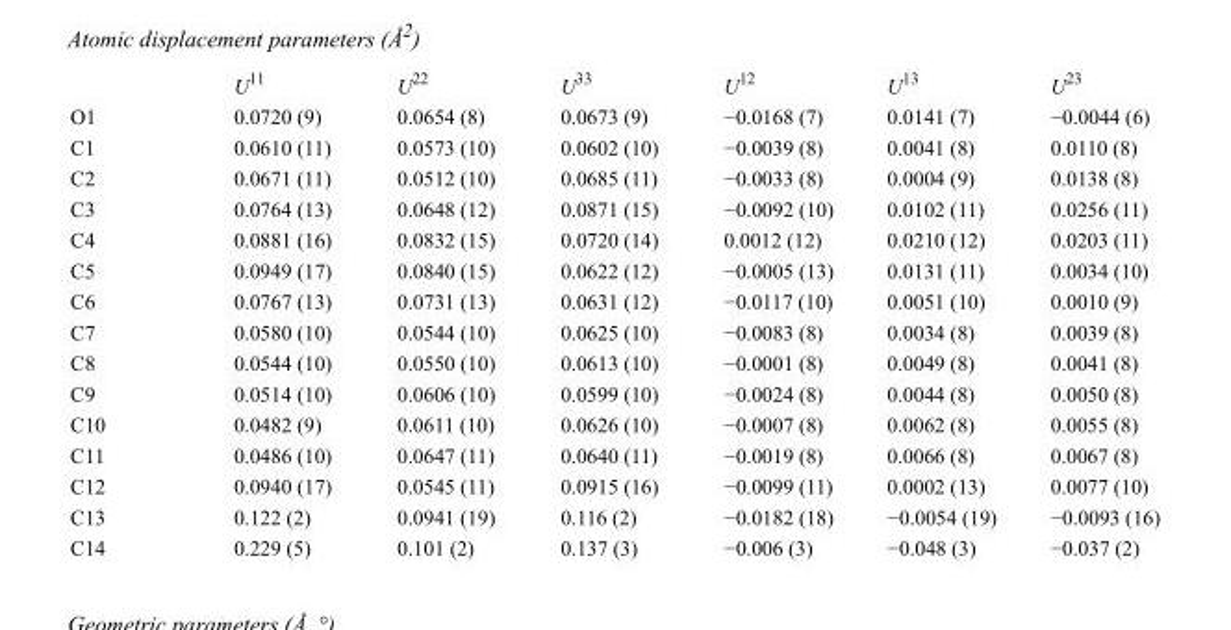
<table><thead><tr><td></td><td>U<sup>11</sup></td><td>U<sup>22</sup></td><td>U<sup>33</sup></td><td>U<sup>12</sup></td><td>U<sup>13</sup></td><td>U<sup>23</sup></td></tr></thead><tbody><tr><td>O1</td><td>0.0720 (9)</td><td>0.0654 (8)</td><td>0.0673 (9)</td><td>−0.0168 (7)</td><td>0.0141 (7)</td><td>−0.0044 (6)</td></tr><tr><td>C1</td><td>0.0610 (11)</td><td>0.0573 (10)</td><td>0.0602 (10)</td><td>−0.0039 (8)</td><td>0.0041 (8)</td><td>0.0110 (8)</td></tr><tr><td>C2</td><td>0.0671 (11)</td><td>0.0512 (10)</td><td>0.0685 (11)</td><td>−0.0033 (8)</td><td>0.0004 (9)</td><td>0.0138 (8)</td></tr><tr><td>C3</td><td>0.0764 (13)</td><td>0.0648 (12)</td><td>0.0871 (15)</td><td>−0.0092 (10)</td><td>0.0102 (11)</td><td>0.0256 (11)</td></tr><tr><td>C4</td><td>0.0881 (16)</td><td>0.0832 (15)</td><td>0.0720 (14)</td><td>0.0012 (12)</td><td>0.0210 (12)</td><td>0.0203 (11)</td></tr><tr><td>C5</td><td>0.0949 (17)</td><td>0.0840 (15)</td><td>0.0622 (12)</td><td>−0.0005 (13)</td><td>0.0131 (11)</td><td>0.0034 (10)</td></tr><tr><td>C6</td><td>0.0767 (13)</td><td>0.0731 (13)</td><td>0.0631 (12)</td><td>−0.0117 (10)</td><td>0.0051 (10)</td><td>0.0010 (9)</td></tr><tr><td>C7</td><td>0.0580 (10)</td><td>0.0544 (10)</td><td>0.0625 (10)</td><td>−0.0083 (8)</td><td>0.0034 (8)</td><td>0.0039 (8)</td></tr><tr><td>C8</td><td>0.0544 (10)</td><td>0.0550 (10)</td><td>0.0613 (10)</td><td>−0.0001 (8)</td><td>0.0049 (8)</td><td>0.0041 (8)</td></tr><tr><td>C9</td><td>0.0514 (10)</td><td>0.0606 (10)</td><td>0.0599 (10)</td><td>−0.0024 (8)</td><td>0.0044 (8)</td><td>0.0050 (8)</td></tr><tr><td>C10</td><td>0.0482 (9)</td><td>0.0611 (10)</td><td>0.0626 (10)</td><td>−0.0007 (8)</td><td>0.0062 (8)</td><td>0.0055 (8)</td></tr><tr><td>C11</td><td>0.0486 (10)</td><td>0.0647 (11)</td><td>0.0640 (11)</td><td>−0.0019 (8)</td><td>0.0066 (8)</td><td>0.0067 (8)</td></tr><tr><td>C12</td><td>0.0940 (17)</td><td>0.0545 (11)</td><td>0.0915 (16)</td><td>−0.0099 (11)</td><td>0.0002 (13)</td><td>0.0077 (10)</td></tr><tr><td>C13</td><td>0.122 (2)</td><td>0.0941 (19)</td><td>0.116 (2)</td><td>−0.0182 (18)</td><td>−0.0054 (19)</td><td>−0.0093 (16)</td></tr><tr><td>C14</td><td>0.229 (5)</td><td>0.101 (2)</td><td>0.137 (3)</td><td>−0.006 (3)</td><td>−0.048 (3)</td><td>−0.037 (2)</td></tr></tbody></table>